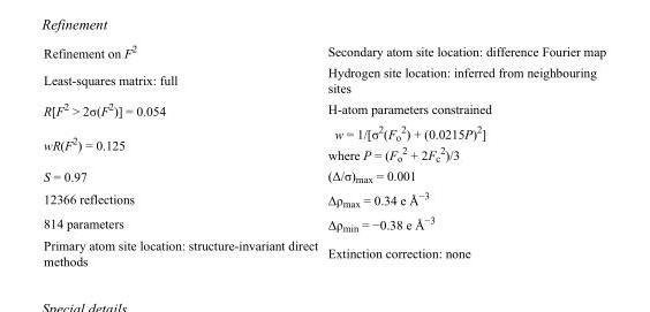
<table><tbody><tr><td>Refinement on F<sup>2</sup></td><td>Secondary atom site location: difference Fourier map</td></tr><tr><td>Least-squares matrix: full</td><td>Hydrogen site location: inferred from neighbouring sites</td></tr><tr><td>R[F<sup>2</sup> &gt; 2σ(F<sup>2</sup>)] = 0.054</td><td>H-atom parameters constrained</td></tr><tr><td>wR(F<sup>2</sup>) = 0.125</td><td>w = 1/[σ<sup>2</sup>(F<sub>o</sub> <sup>2</sup>) + (0.0215P)<sup>2</sup>] where P = (F<sub>o</sub> <sup>2</sup> + 2F<sub>c</sub> <sup>2</sup>)/3</td></tr><tr><td>S = 0.97</td><td>(Δ/σ)<sub>max</sub> = 0.001</td></tr><tr><td>12366 reflections</td><td>Δρ<sub>max</sub> = 0.34 e Å<sup>−3</sup></td></tr><tr><td>814 parameters</td><td>Δρ<sub>min</sub> = −0.38 e Å<sup>−3</sup></td></tr><tr><td>Primary atom site location: structure-invariant direct methods</td><td>Extinction correction: none</td></tr></tbody></table>